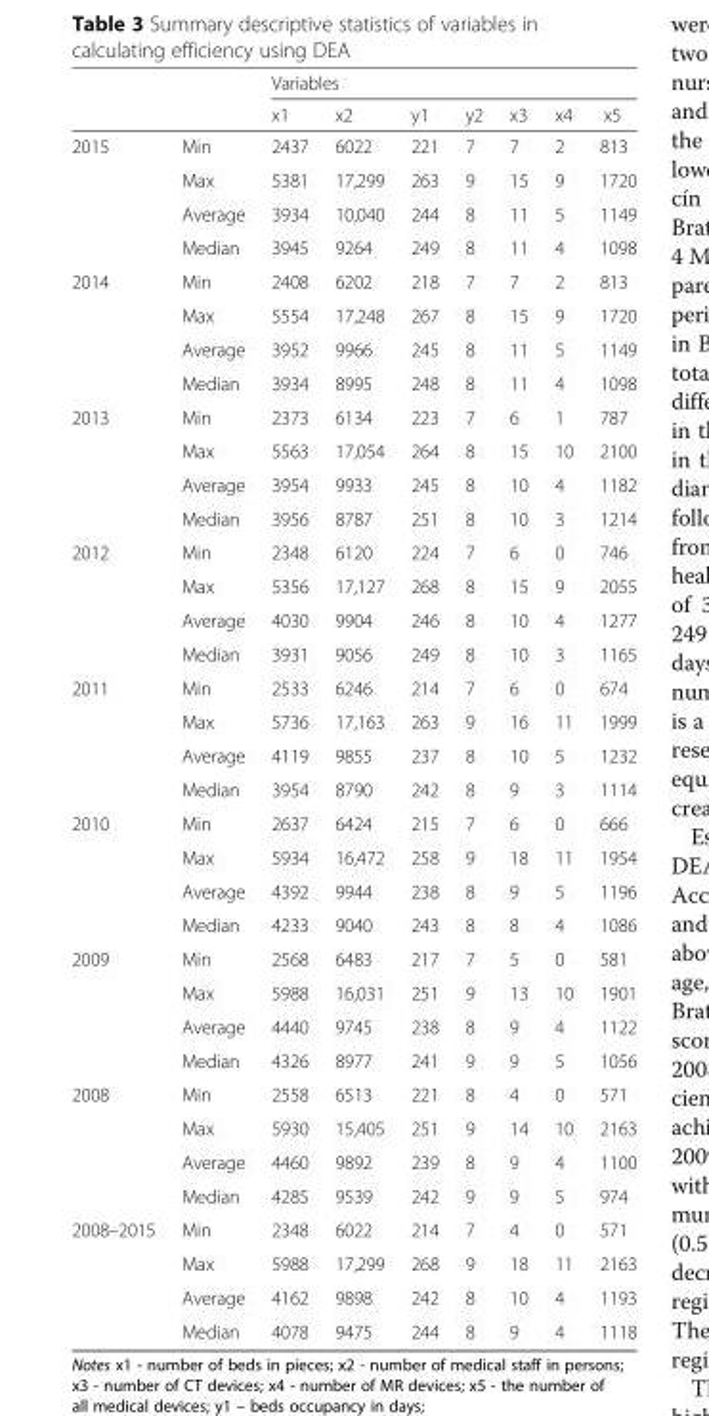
<table><thead><tr><td rowspan="2"></td><td rowspan="2"></td><td colspan="7">Variables</td></tr><tr><td>x1</td><td>x2</td><td>y1</td><td>y2</td><td>x3</td><td>x4</td><td>x5</td></tr></thead><tbody><tr><td rowspan="4">2015</td><td>Min</td><td>2437</td><td>6022</td><td>221</td><td>7</td><td>7</td><td>2</td><td>813</td></tr><tr><td>Max</td><td>5381</td><td>17,299</td><td>263</td><td>9</td><td>15</td><td>9</td><td>1720</td></tr><tr><td>Average</td><td>3934</td><td>10,040</td><td>244</td><td>8</td><td>11</td><td>5</td><td>1149</td></tr><tr><td>Median</td><td>3945</td><td>9264</td><td>249</td><td>8</td><td>11</td><td>4</td><td>1098</td></tr><tr><td rowspan="4">2014</td><td>Min</td><td>2408</td><td>6202</td><td>218</td><td>7</td><td>7</td><td>2</td><td>813</td></tr><tr><td>Max</td><td>5554</td><td>17,248</td><td>267</td><td>8</td><td>15</td><td>9</td><td>1720</td></tr><tr><td>Average</td><td>3952</td><td>9966</td><td>245</td><td>8</td><td>11</td><td>5</td><td>1149</td></tr><tr><td>Median</td><td>3934</td><td>8995</td><td>248</td><td>8</td><td>11</td><td>4</td><td>1098</td></tr><tr><td rowspan="4">2013</td><td>Min</td><td>2373</td><td>6134</td><td>223</td><td>7</td><td>6</td><td>1</td><td>787</td></tr><tr><td>Max</td><td>5563</td><td>17,054</td><td>264</td><td>8</td><td>15</td><td>10</td><td>2100</td></tr><tr><td>Average</td><td>3954</td><td>9933</td><td>245</td><td>8</td><td>10</td><td>4</td><td>1182</td></tr><tr><td>Median</td><td>3956</td><td>8787</td><td>251</td><td>8</td><td>10</td><td>3</td><td>1214</td></tr><tr><td rowspan="4">2012</td><td>Min</td><td>2348</td><td>6120</td><td>224</td><td>7</td><td>6</td><td>0</td><td>746</td></tr><tr><td>Max</td><td>5356</td><td>17,127</td><td>268</td><td>8</td><td>15</td><td>9</td><td>2055</td></tr><tr><td>Average</td><td>4030</td><td>9904</td><td>246</td><td>8</td><td>10</td><td>4</td><td>1277</td></tr><tr><td>Median</td><td>3931</td><td>9056</td><td>249</td><td>8</td><td>10</td><td>3</td><td>1165</td></tr><tr><td rowspan="4">2011</td><td>Min</td><td>2533</td><td>6246</td><td>214</td><td>7</td><td>6</td><td>0</td><td>674</td></tr><tr><td>Max</td><td>5736</td><td>17,163</td><td>263</td><td>9</td><td>16</td><td>11</td><td>1999</td></tr><tr><td>Average</td><td>4119</td><td>9855</td><td>237</td><td>8</td><td>10</td><td>5</td><td>1232</td></tr><tr><td>Median</td><td>3954</td><td>8790</td><td>242</td><td>8</td><td>9</td><td>3</td><td>1114</td></tr><tr><td rowspan="4">2010</td><td>Min</td><td>2637</td><td>6424</td><td>215</td><td>7</td><td>6</td><td>0</td><td>666</td></tr><tr><td>Max</td><td>5934</td><td>16,472</td><td>258</td><td>9</td><td>18</td><td>11</td><td>1954</td></tr><tr><td>Average</td><td>4392</td><td>9944</td><td>238</td><td>8</td><td>9</td><td>5</td><td>1196</td></tr><tr><td>Median</td><td>4233</td><td>9040</td><td>243</td><td>8</td><td>8</td><td>4</td><td>1086</td></tr><tr><td rowspan="4">2009</td><td>Min</td><td>2568</td><td>6483</td><td>217</td><td>7</td><td>5</td><td>0</td><td>581</td></tr><tr><td>Max</td><td>5988</td><td>16,031</td><td>251</td><td>9</td><td>13</td><td>10</td><td>1901</td></tr><tr><td>Average</td><td>4440</td><td>9745</td><td>238</td><td>8</td><td>9</td><td>4</td><td>1122</td></tr><tr><td>Median</td><td>4326</td><td>8977</td><td>241</td><td>9</td><td>9</td><td>5</td><td>1056</td></tr><tr><td rowspan="4">2008</td><td>Min</td><td>2558</td><td>6513</td><td>221</td><td>8</td><td>4</td><td>0</td><td>571</td></tr><tr><td>Max</td><td>5930</td><td>15,405</td><td>251</td><td>9</td><td>14</td><td>10</td><td>2163</td></tr><tr><td>Average</td><td>4460</td><td>9892</td><td>239</td><td>8</td><td>9</td><td>4</td><td>1100</td></tr><tr><td>Median</td><td>4285</td><td>9539</td><td>242</td><td>9</td><td>9</td><td>5</td><td>974</td></tr><tr><td rowspan="4">2008–2015</td><td>Min</td><td>2348</td><td>6022</td><td>214</td><td>7</td><td>4</td><td>0</td><td>571</td></tr><tr><td>Max</td><td>5988</td><td>17,299</td><td>268</td><td>9</td><td>18</td><td>11</td><td>2163</td></tr><tr><td>Average</td><td>4162</td><td>9898</td><td>242</td><td>8</td><td>10</td><td>4</td><td>1193</td></tr><tr><td>Median</td><td>4078</td><td>9475</td><td>244</td><td>8</td><td>9</td><td>4</td><td>1118</td></tr></tbody></table>